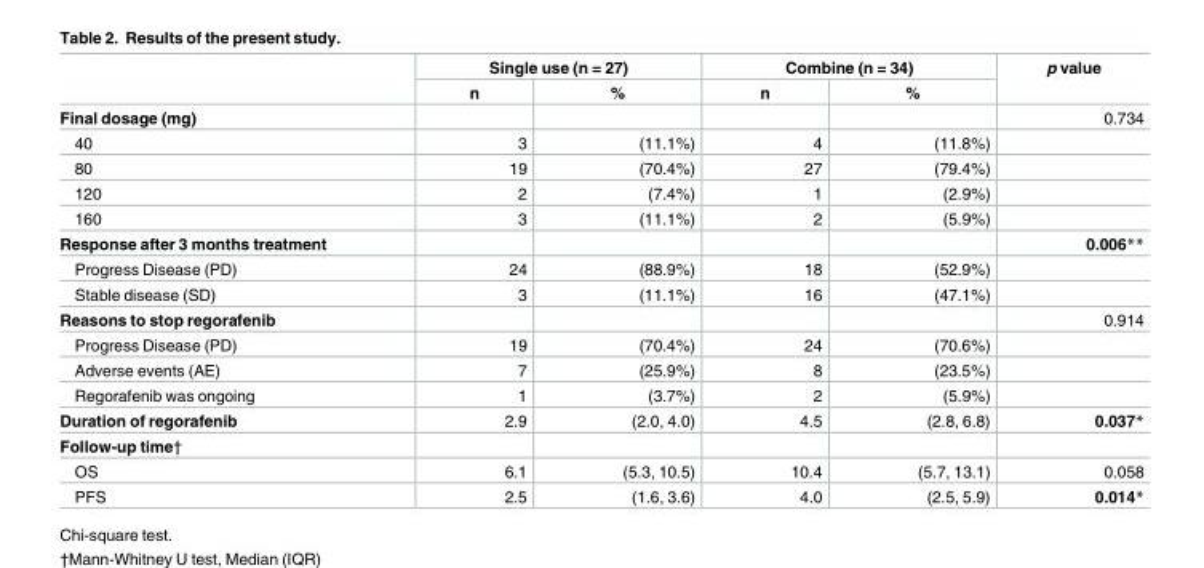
<table><thead><tr><td rowspan="2"></td><td colspan="2">Single use (n = 27)</td><td colspan="2">Combine (n = 34)</td><td rowspan="2">p value</td></tr><tr><td>n</td><td>%</td><td>n</td><td>%</td></tr></thead><tbody><tr><td>Final dosage (mg)</td><td></td><td></td><td></td><td></td><td>0.734</td></tr><tr><td>40</td><td>3</td><td>(11.1%)</td><td>4</td><td>(11.8%)</td><td></td></tr><tr><td>80</td><td>19</td><td>(70.4%)</td><td>27</td><td>(79.4%)</td><td></td></tr><tr><td>120</td><td>2</td><td>(7.4%)</td><td>1</td><td>(2.9%)</td><td></td></tr><tr><td>160</td><td>3</td><td>(11.1%)</td><td>2</td><td>(5.9%)</td><td></td></tr><tr><td>Response after 3 months treatment</td><td></td><td></td><td></td><td></td><td>0.006**</td></tr><tr><td>Progress Disease (PD)</td><td>24</td><td>(88.9%)</td><td>18</td><td>(52.9%)</td><td></td></tr><tr><td>Stable disease (SD)</td><td>3</td><td>(11.1%)</td><td>16</td><td>(47.1%)</td><td></td></tr><tr><td>Reasons to stop regorafenib</td><td></td><td></td><td></td><td></td><td>0.914</td></tr><tr><td>Progress Disease (PD)</td><td>19</td><td>(70.4%)</td><td>24</td><td>(70.6%)</td><td></td></tr><tr><td>Adverse events (AE)</td><td>7</td><td>(25.9%)</td><td>8</td><td>(23.5%)</td><td></td></tr><tr><td>Regorafenib was ongoing</td><td>1</td><td>(3.7%)</td><td>2</td><td>(5.9%)</td><td></td></tr><tr><td>Duration of regorafenib</td><td>2.9</td><td>(2.0, 4.0)</td><td>4.5</td><td>(2.8, 6.8)</td><td>0.037*</td></tr><tr><td colspan="6">Follow-up time†</td></tr><tr><td>OS</td><td>6.1</td><td>(5.3, 10.5)</td><td>10.4</td><td>(5.7, 13.1)</td><td>0.058</td></tr><tr><td>PFS</td><td>2.5</td><td>(1.6, 3.6)</td><td>4.0</td><td>(2.5, 5.9)</td><td>0.014*</td></tr></tbody></table>